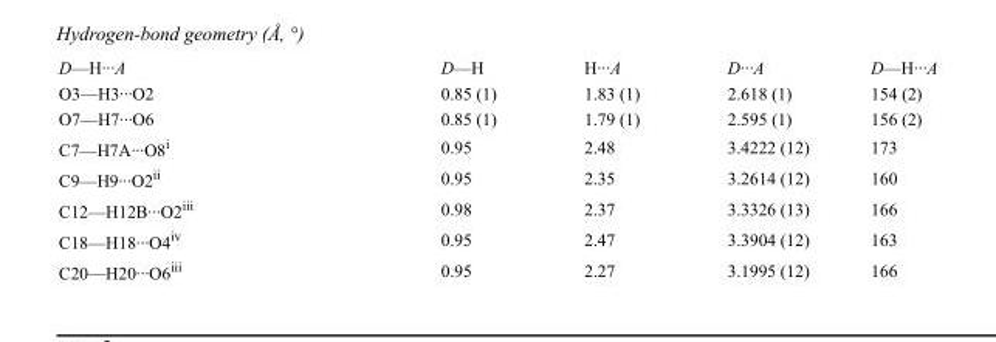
<table><tbody><tr><td>D—H···A</td><td>D—H</td><td>H···A</td><td>D···A</td><td>D—H···A</td></tr><tr><td>O3—H3···O2</td><td>0.85 (1)</td><td>1.83 (1)</td><td>2.618 (1)</td><td>154 (2)</td></tr><tr><td>O7—H7···O6</td><td>0.85 (1)</td><td>1.79 (1)</td><td>2.595 (1)</td><td>156 (2)</td></tr><tr><td>C7—H7A···O8<sup>i</sup></td><td>0.95</td><td>2.48</td><td>3.4222 (12)</td><td>173</td></tr><tr><td>C9—H9···O2<sup>ii</sup></td><td>0.95</td><td>2.35</td><td>3.2614 (12)</td><td>160</td></tr><tr><td>C12—H12B···O2<sup>iii</sup></td><td>0.98</td><td>2.37</td><td>3.3326 (13)</td><td>166</td></tr><tr><td>C18—H18···O4<sup>iv</sup></td><td>0.95</td><td>2.47</td><td>3.3904 (12)</td><td>163</td></tr><tr><td>C20—H20···O6<sup>iii</sup></td><td>0.95</td><td>2.27</td><td>3.1995 (12)</td><td>166</td></tr></tbody></table>